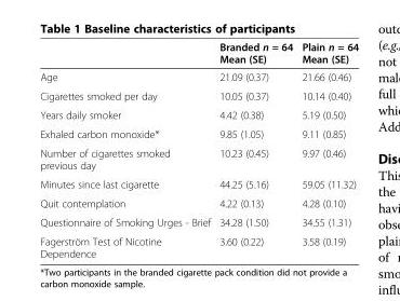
<table><thead><tr><td></td><td>Branded n = 64 Mean (SE)</td><td>Plain n = 64 Mean (SE)</td></tr></thead><tbody><tr><td>Age</td><td>21.09 (0.37)</td><td>21.66 (0.46)</td></tr><tr><td>Cigarettes smoked per day</td><td>10.05 (0.37)</td><td>10.14 (0.40)</td></tr><tr><td>Years daily smoker</td><td>4.42 (0.38)</td><td>5.19 (0.50)</td></tr><tr><td>Exhaled carbon monoxide*</td><td>9.85 (1.05)</td><td>9.11 (0.85)</td></tr><tr><td>Number of cigarettes smoked previous day</td><td>10.23 (0.45)</td><td>9.97 (0.46)</td></tr><tr><td>Minutes since last cigarette</td><td>44.25 (5.16)</td><td>59.05 (11.32)</td></tr><tr><td>Quit contemplation</td><td>4.22 (0.13)</td><td>4.28 (0.10)</td></tr><tr><td>Questionnaire of Smoking Urges - Brief</td><td>34.28 (1.50)</td><td>34.55 (1.31)</td></tr><tr><td>Fagerström Test of Nicotine Dependence</td><td>3.60 (0.22)</td><td>3.58 (0.19)</td></tr></tbody></table>